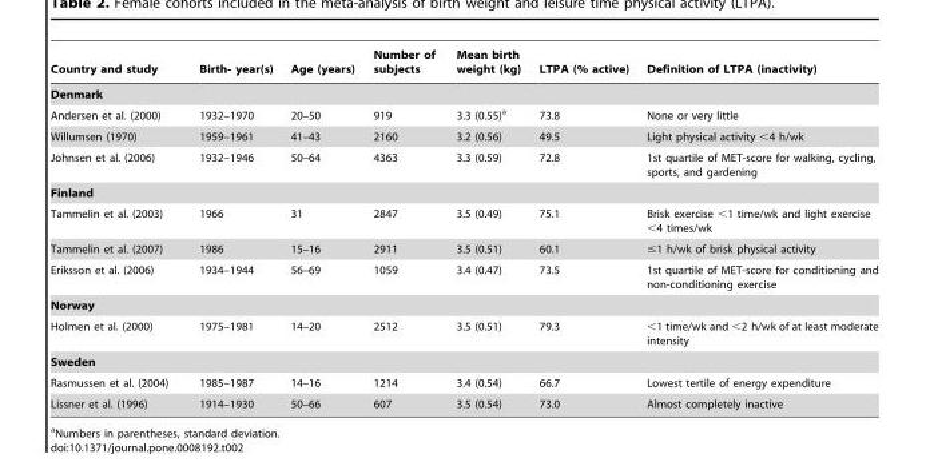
<table><thead><tr><td>Country and study</td><td>Birth- year(s)</td><td>Age (years)</td><td>Number of subjects</td><td>Mean birth weight (kg)</td><td>LTPA (% active)</td><td>Definition of LTPA (inactivity)</td></tr></thead><tbody><tr><td colspan="7">Denmark</td></tr><tr><td>Andersen et al. (2000)</td><td>1932–1970</td><td>20–50</td><td>919</td><td>3.3 (0.55)<sup>a</sup></td><td>73.8</td><td>None or very little</td></tr><tr><td>Willumsen (1970)</td><td>1959–1961</td><td>41–43</td><td>2160</td><td>3.2 (0.56)</td><td>49.5</td><td>Light physical activity &lt;4 h/wk</td></tr><tr><td>Johnsen et al. (2006)</td><td>1932–1946</td><td>50–64</td><td>4363</td><td>3.3 (0.59)</td><td>72.8</td><td>1st quartile of MET-score for walking, cycling, sports, and gardening</td></tr><tr><td colspan="7">Finland</td></tr><tr><td>Tammelin et al. (2003)</td><td>1966</td><td>31</td><td>2847</td><td>3.5 (0.49)</td><td>75.1</td><td>Brisk exercise &lt;1 time/wk and light exercise &lt;4 times/wk</td></tr><tr><td>Tammelin et al. (2007)</td><td>1986</td><td>15–16</td><td>2911</td><td>3.5 (0.51)</td><td>60.1</td><td>≤1 h/wk of brisk physical activity</td></tr><tr><td>Eriksson et al. (2006)</td><td>1934–1944</td><td>56–69</td><td>1059</td><td>3.4 (0.47)</td><td>73.5</td><td>1st quartile of MET-score for conditioning and non-conditioning exercise</td></tr><tr><td colspan="7">Norway</td></tr><tr><td>Holmen et al. (2000)</td><td>1975–1981</td><td>14–20</td><td>2512</td><td>3.5 (0.51)</td><td>79.3</td><td>&lt;1 time/wk and &lt;2 h/wk of at least moderate intensity</td></tr><tr><td colspan="7">Sweden</td></tr><tr><td>Rasmussen et al. (2004)</td><td>1985–1987</td><td>14–16</td><td>1214</td><td>3.4 (0.54)</td><td>66.7</td><td>Lowest tertile of energy expenditure</td></tr><tr><td>Lissner et al. (1996)</td><td>1914–1930</td><td>50–66</td><td>607</td><td>3.5 (0.54)</td><td>73.0</td><td>Almost completely inactive</td></tr></tbody></table>